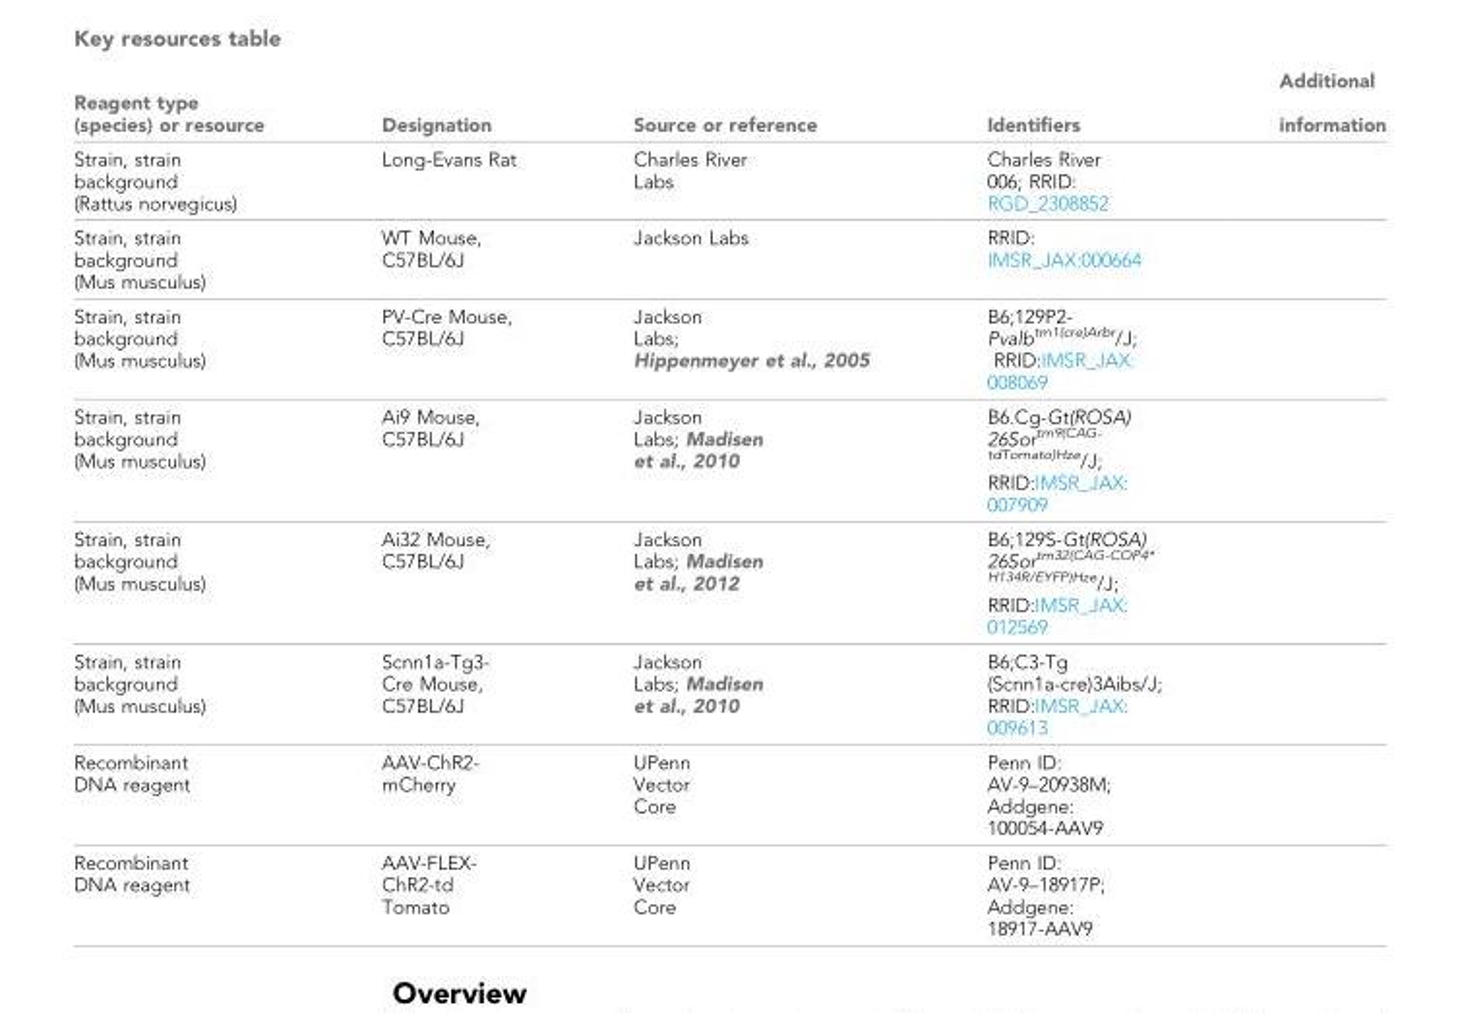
<table><thead><tr><td>Reagent type (species) or resource</td><td>Designation</td><td>Source or reference</td><td>Identifiers</td><td>Additional information</td></tr></thead><tbody><tr><td>Strain, strain background (Rattus norvegicus)</td><td>Long-Evans Rat</td><td>Charles River Labs</td><td>Charles River 006; RRID: RGD_2308852</td><td></td></tr><tr><td>Strain, strain background (Mus musculus)</td><td>WT Mouse, C57BL/6J</td><td>Jackson Labs</td><td>RRID: IMSR_JAX:000664</td><td></td></tr><tr><td>Strain, strain background (Mus musculus)</td><td>PV-Cre Mouse, C57BL/6J</td><td>Jackson Labs; Hippenmeyer et al., 2005</td><td>B6;129P2- Pvalb<sup>tm1(cre)Arbr</sup>/J; RRID:IMSR_JAX: 008069</td><td></td></tr><tr><td>Strain, strain background (Mus musculus)</td><td>Ai9 Mouse, C57BL/6J</td><td>Jackson Labs; Madisen et al., 2010</td><td>B6.Cg-Gt(ROSA) 26Sor<sup>tm9(CAG- tdTomato)Hze</sup>/J; RRID:IMSR_JAX: 007909</td><td></td></tr><tr><td>Strain, strain background (Mus musculus)</td><td>Ai32 Mouse, C57BL/6J</td><td>Jackson Labs; Madisen et al., 2012</td><td>B6;129S-Gt(ROSA) 26Sor<sup>tm32(CAG-COP4* H134R/EYFP)Hze</sup>/J; RRID:IMSR_JAX: 012569</td><td></td></tr><tr><td>Strain, strain background (Mus musculus)</td><td>Scnn1a-Tg3- Cre Mouse, C57BL/6J</td><td>Jackson Labs; Madisen et al., 2010</td><td>B6;C3-Tg (Scnn1a-cre)3Aibs/J; RRID:IMSR_JAX: 009613</td><td></td></tr><tr><td>Recombinant DNA reagent</td><td>AAV-ChR2- mCherry</td><td>UPenn Vector Core</td><td>Penn ID: AV-9–20938M; Addgene: 100054-AAV9</td><td></td></tr><tr><td>Recombinant DNA reagent</td><td>AAV-FLEX- ChR2-td Tomato</td><td>UPenn Vector Core</td><td>Penn ID: AV-9–18917P; Addgene: 18917-AAV9</td><td></td></tr></tbody></table>